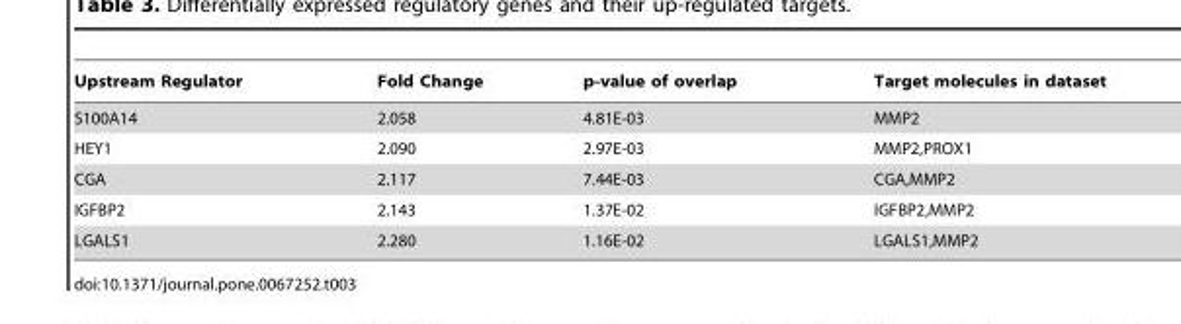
<table><thead><tr><td>Upstream Regulator</td><td>Fold Change</td><td>p-value of overlap</td><td>Target molecules in dataset</td></tr></thead><tbody><tr><td>S100A14</td><td>2.058</td><td>4.81E-03</td><td>MMP2</td></tr><tr><td>HEY1</td><td>2.090</td><td>2.97E-03</td><td>MMP2,PROX1</td></tr><tr><td>CGA</td><td>2.117</td><td>7.44E-03</td><td>CGA,MMP2</td></tr><tr><td>IGFBP2</td><td>2.143</td><td>1.37E-02</td><td>IGFBP2,MMP2</td></tr><tr><td>LGALS1</td><td>2.280</td><td>1.16E-02</td><td>LGALS1,MMP2</td></tr></tbody></table>